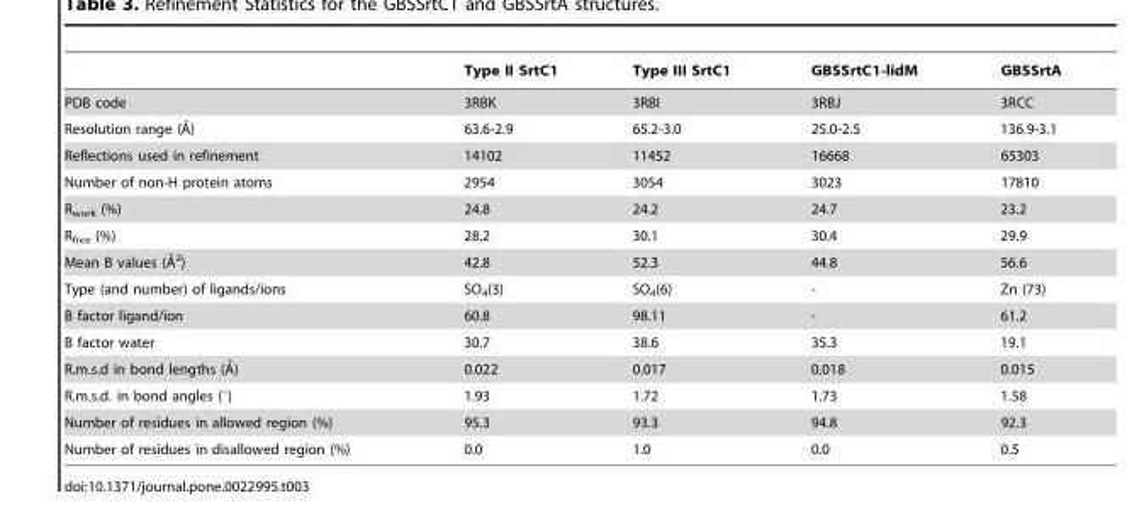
<table><thead><tr><td></td><td>Type II SrtC1</td><td>Type III SrtC1</td><td>GBSSrtC1-lidM</td><td>GBSSrtA</td></tr></thead><tbody><tr><td>PDB code</td><td>3RBK</td><td>3RBI</td><td>3RBJ</td><td>3RCC</td></tr><tr><td>Resolution range (A˚)</td><td>63.6-2.9</td><td>65.2-3.0</td><td>25.0-2.5</td><td>136.9-3.1</td></tr><tr><td>Reflections used in refinement</td><td>14102</td><td>11452</td><td>16668</td><td>65303</td></tr><tr><td>Number of non-H protein atoms</td><td>2954</td><td>3054</td><td>3023</td><td>17810</td></tr><tr><td>R<sub>work</sub> (%)</td><td>24.8</td><td>24.2</td><td>24.7</td><td>23.2</td></tr><tr><td>R<sub>free</sub> (%)</td><td>28.2</td><td>30.1</td><td>30.4</td><td>29.9</td></tr><tr><td>Mean B values (A˚2)</td><td>42.8</td><td>52.3</td><td>44.8</td><td>56.6</td></tr><tr><td>Type (and number) of ligands/ions</td><td>SO<sub>4</sub>(3)</td><td>SO<sub>4</sub>(6)</td><td>-</td><td>Zn (73)</td></tr><tr><td>B factor ligand/ion</td><td>60.8</td><td>98.11</td><td>-</td><td>61.2</td></tr><tr><td>B factor water</td><td>30.7</td><td>38.6</td><td>35.3</td><td>19.1</td></tr><tr><td>R.m.s.d in bond lengths (A˚)</td><td>0.022</td><td>0.017</td><td>0.018</td><td>0.015</td></tr><tr><td>R.m.s.d. in bond angles (°)</td><td>1.93</td><td>1.72</td><td>1.73</td><td>1.58</td></tr><tr><td>Number of residues in allowed region (%)</td><td>95.3</td><td>93.3</td><td>94.8</td><td>92.3</td></tr><tr><td>Number of residues in disallowed region (%)</td><td>0.0</td><td>1.0</td><td>0.0</td><td>0.5</td></tr></tbody></table>